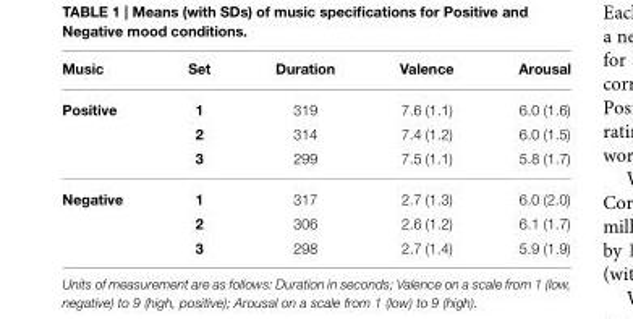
<table><thead><tr><td>Music</td><td>Set</td><td>Duration</td><td>Valence</td><td>Arousal</td></tr></thead><tbody><tr><td rowspan="3">Positive</td><td>1</td><td>319</td><td>7.6 (1.1)</td><td>6.0 (1.6)</td></tr><tr><td>2</td><td>314</td><td>7.4 (1.2)</td><td>6.0 (1.5)</td></tr><tr><td>3</td><td>299</td><td>7.5 (1.1)</td><td>5.8 (1.7)</td></tr><tr><td rowspan="3">Negative</td><td>1</td><td>317</td><td>2.7 (1.3)</td><td>6.0 (2.0)</td></tr><tr><td>2</td><td>306</td><td>2.6 (1.2)</td><td>6.1 (1.7)</td></tr><tr><td>3</td><td>298</td><td>2.7 (1.4)</td><td>5.9 (1.9)</td></tr></tbody></table>